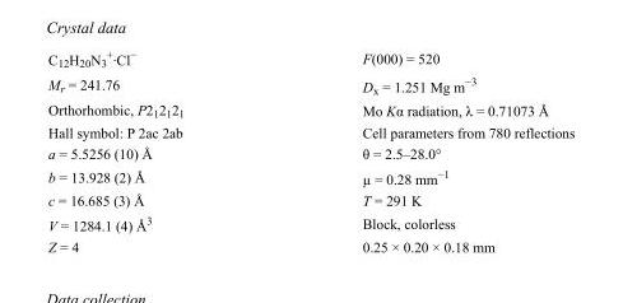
<table><tbody><tr><td>C<sub>12</sub>H<sub>20</sub>N<sub>3</sub> <sup>+</sup>·Cl<sup>−</sup></td><td>F(000) = 520</td></tr><tr><td>M<sub>r</sub> = 241.76</td><td>D<sub>x</sub> = 1.251 Mg m<sup>−3</sup></td></tr><tr><td>Orthorhombic, P2<sub>1</sub>2<sub>1</sub>2<sub>1</sub></td><td>Mo Kα radiation, λ = 0.71073 Å</td></tr><tr><td>Hall symbol: P 2ac 2ab</td><td>Cell parameters from 780 reflections</td></tr><tr><td>a = 5.5256 (10) Å</td><td>θ = 2.5–28.0°</td></tr><tr><td>b = 13.928 (2) Å</td><td>µ = 0.28 mm<sup>−1</sup></td></tr><tr><td>c = 16.685 (3) Å</td><td>T = 291 K</td></tr><tr><td>V = 1284.1 (4) Å<sup>3</sup></td><td>Block, colorless</td></tr><tr><td>Z = 4</td><td>0.25 × 0.20 × 0.18 mm</td></tr></tbody></table>